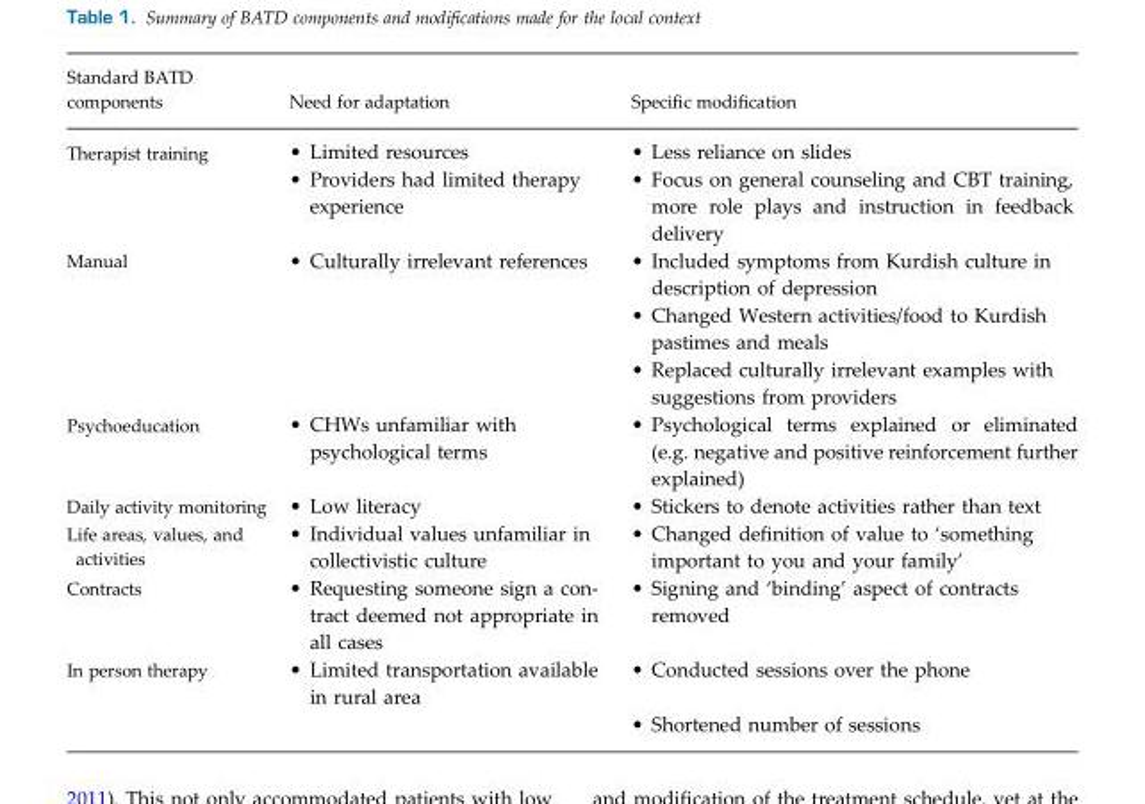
<table><thead><tr><td>Standard BATD components</td><td>Need for adaptation</td><td>Specific modification</td></tr></thead><tbody><tr><td rowspan="2">Therapist training</td><td>• Limited resources</td><td>• Less reliance on slides</td></tr><tr><td>• Providers had limited therapy experience</td><td>• Focus on general counseling and CBT training, more role plays and instruction in feedback delivery</td></tr><tr><td rowspan="3">Manual</td><td>• Culturally irrelevant references</td><td>• Included symptoms from Kurdish culture in description of depression</td></tr><tr><td></td><td>• Changed Western activities/food to Kurdish pastimes and meals</td></tr><tr><td></td><td>• Replaced culturally irrelevant examples with suggestions from providers</td></tr><tr><td>Psychoeducation</td><td>• CHWs unfamiliar with psychological terms</td><td>• Psychological terms explained or eliminated (e.g. negative and positive reinforcement further explained)</td></tr><tr><td>Daily activity monitoring</td><td>• Low literacy</td><td>• Stickers to denote activities rather than text</td></tr><tr><td>Life areas, values, and activities</td><td>• Individual values unfamiliar in collectivistic culture</td><td>• Changed definition of value to ‘something important to you and your family’</td></tr><tr><td>Contracts</td><td>• Requesting someone sign a con- tract deemed not appropriate in all cases</td><td>• Signing and ‘binding’ aspect of contracts removed</td></tr><tr><td rowspan="2">In person therapy</td><td>• Limited transportation available in rural area</td><td>• Conducted sessions over the phone</td></tr><tr><td></td><td>• Shortened number of sessions</td></tr></tbody></table>